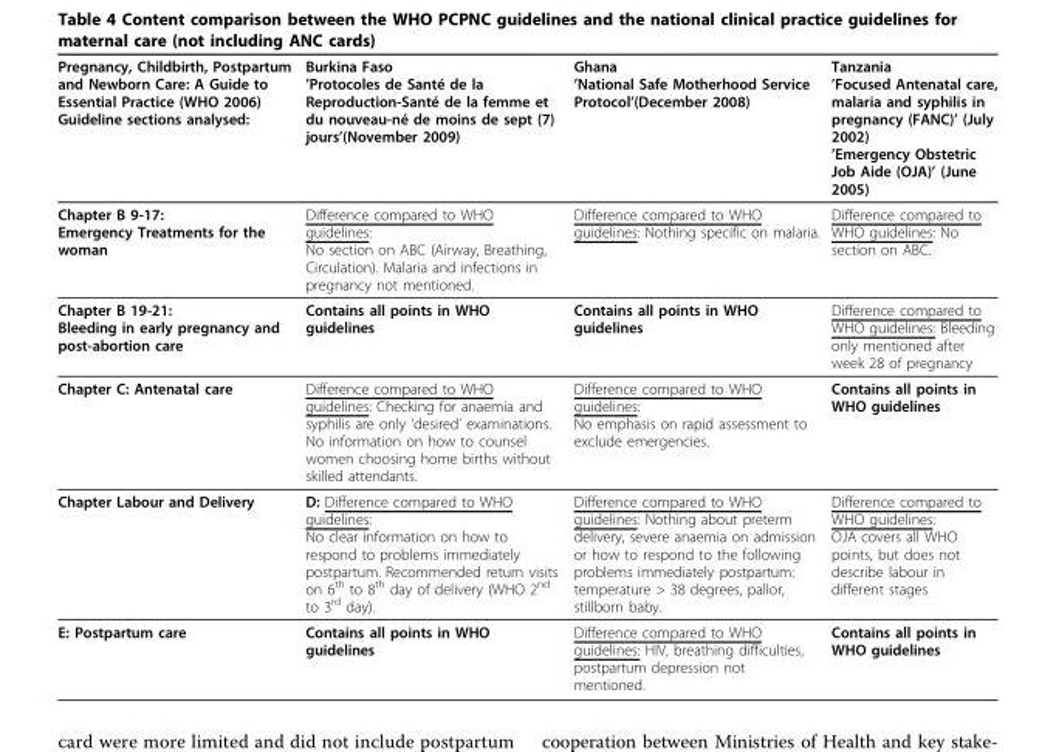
<table><thead><tr><td>Pregnancy, Childbirth, Postpartum and Newborn Care: A Guide to Essential Practice (WHO 2006) Guideline sections analysed:</td><td>Burkina Faso ’Protocoles de Santé de la Reproduction-Santé de la femme et du nouveau-né de moins de sept (7) jours’(November 2009)</td><td>Ghana ’National Safe Motherhood Service Protocol’(December 2008)</td><td>Tanzania ’Focused Antenatal care, malaria and syphilis in pregnancy (FANC)’ (July 2002) ’Emergency Obstetric Job Aide (OJA)’ (June 2005)</td></tr></thead><tbody><tr><td>Chapter B 9-17: Emergency Treatments for the woman</td><td>Difference compared to WHO guidelines: No section on ABC (Airway, Breathing, Circulation). Malaria and infections in pregnancy not mentioned.</td><td>Difference compared to WHO guidelines: Nothing specific on malaria.</td><td>Difference compared to WHO guidelines: No section on ABC.</td></tr><tr><td>Chapter B 19-21: Bleeding in early pregnancy and post-abortion care</td><td>Contains all points in WHO guidelines</td><td>Contains all points in WHO guidelines</td><td>Difference compared to WHO guidelines: Bleeding only mentioned after week 28 of pregnancy</td></tr><tr><td>Chapter C: Antenatal care</td><td>Difference compared to WHO guidelines: Checking for anaemia and syphilis are only ‘desired’ examinations. No information on how to counsel women choosing home births without skilled attendants.</td><td>Difference compared to WHO guidelines: No emphasis on rapid assessment to exclude emergencies.</td><td>Contains all points in WHO guidelines</td></tr><tr><td>Chapter Labour and Delivery</td><td>D: Difference compared to WHO guidelines: No clear information on how to respond to problems immediately postpartum. Recommended return visits on 6<sup>th</sup> to 8<sup>th</sup> day of delivery (WHO 2<sup>nd</sup> to 3<sup>rd</sup> day).</td><td>Difference compared to WHO guidelines: Nothing about preterm delivery, severe anaemia on admission or how to respond to the following problems immediately postpartum: temperature &gt; 38 degrees, pallor, stillborn baby.</td><td>Difference compared to WHO guidelines: OJA covers all WHO points, but does not describe labour in different stages</td></tr><tr><td>E: Postpartum care</td><td>Contains all points in WHO guidelines</td><td>Difference compared to WHO guidelines: HIV, breathing difficulties, postpartum depression not mentioned.</td><td>Contains all points in WHO guidelines</td></tr></tbody></table>